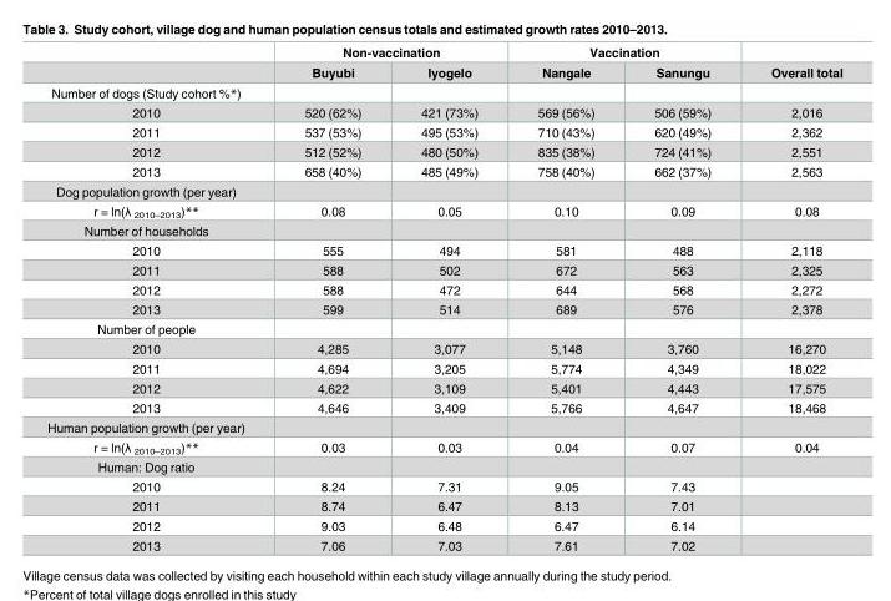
<table><thead><tr><td rowspan="2"></td><td colspan="2">Non-vaccination</td><td colspan="2">Vaccination</td><td rowspan="2">Overall total</td></tr><tr><td>Buyubi</td><td>Iyogelo</td><td>Nangale</td><td>Sanungu</td></tr></thead><tbody><tr><td colspan="6">Number of dogs (Study cohort %*)</td></tr><tr><td>2010</td><td>520 (62%)</td><td>421 (73%)</td><td>569 (56%)</td><td>506 (59%)</td><td>2,016</td></tr><tr><td>2011</td><td>537 (53%)</td><td>495 (53%)</td><td>710 (43%)</td><td>620 (49%)</td><td>2,362</td></tr><tr><td>2012</td><td>512 (52%)</td><td>480 (50%)</td><td>835 (38%)</td><td>724 (41%)</td><td>2,551</td></tr><tr><td>2013</td><td>658 (40%)</td><td>485 (49%)</td><td>758 (40%)</td><td>662 (37%)</td><td>2,563</td></tr><tr><td colspan="6">Dog population growth (per year)</td></tr><tr><td>r = ln(λ <sub>2010–2013</sub>)**</td><td>0.08</td><td>0.05</td><td>0.10</td><td>0.09</td><td>0.08</td></tr><tr><td colspan="6">Number of households</td></tr><tr><td>2010</td><td>555</td><td>494</td><td>581</td><td>488</td><td>2,118</td></tr><tr><td>2011</td><td>588</td><td>502</td><td>672</td><td>563</td><td>2,325</td></tr><tr><td>2012</td><td>588</td><td>472</td><td>644</td><td>568</td><td>2,272</td></tr><tr><td>2013</td><td>599</td><td>514</td><td>689</td><td>576</td><td>2,378</td></tr><tr><td colspan="6">Number of people</td></tr><tr><td>2010</td><td>4,285</td><td>3,077</td><td>5,148</td><td>3,760</td><td>16,270</td></tr><tr><td>2011</td><td>4,694</td><td>3,205</td><td>5,774</td><td>4,349</td><td>18,022</td></tr><tr><td>2012</td><td>4,622</td><td>3,109</td><td>5,401</td><td>4,443</td><td>17,575</td></tr><tr><td>2013</td><td>4,646</td><td>3,409</td><td>5,766</td><td>4,647</td><td>18,468</td></tr><tr><td colspan="6">Human population growth (per year)</td></tr><tr><td>r = ln(λ <sub>2010–2013</sub>)**</td><td>0.03</td><td>0.03</td><td>0.04</td><td>0.07</td><td>0.04</td></tr><tr><td colspan="6">Human: Dog ratio</td></tr><tr><td>2010</td><td>8.24</td><td>7.31</td><td>9.05</td><td>7.43</td><td></td></tr><tr><td>2011</td><td>8.74</td><td>6.47</td><td>8.13</td><td>7.01</td><td></td></tr><tr><td>2012</td><td>9.03</td><td>6.48</td><td>6.47</td><td>6.14</td><td></td></tr><tr><td>2013</td><td>7.06</td><td>7.03</td><td>7.61</td><td>7.02</td><td></td></tr></tbody></table>